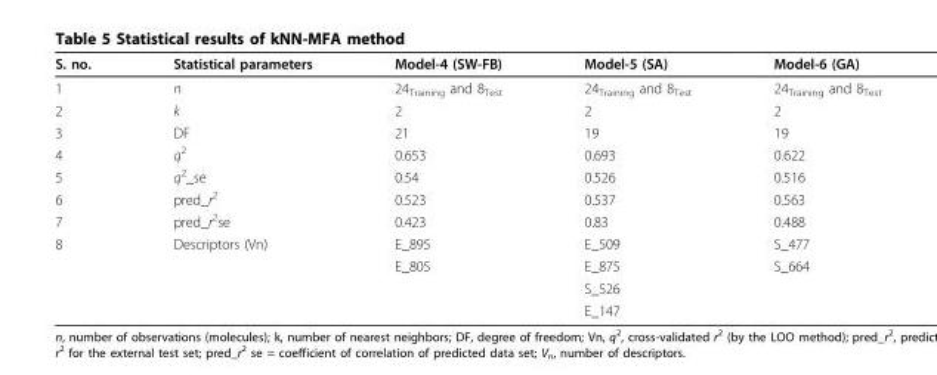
<table><thead><tr><td>S. no.</td><td>Statistical parameters</td><td>Model-4 (SW-FB)</td><td>Model-5 (SA)</td><td>Model-6 (GA)</td></tr></thead><tbody><tr><td>1</td><td>n</td><td>24<sub>Training</sub> and 8<sub>Test</sub></td><td>24<sub>Training</sub> and 8<sub>Test</sub></td><td>24<sub>Training</sub> and 8<sub>Test</sub></td></tr><tr><td>2</td><td>k</td><td>2</td><td>2</td><td>2</td></tr><tr><td>3</td><td>DF</td><td>21</td><td>19</td><td>19</td></tr><tr><td>4</td><td>q<sup>2</sup></td><td>0.653</td><td>0.693</td><td>0.622</td></tr><tr><td>5</td><td>q<sup>2</sup>_se</td><td>0.54</td><td>0.526</td><td>0.516</td></tr><tr><td>6</td><td>pred_r<sup>2</sup></td><td>0.523</td><td>0.537</td><td>0.563</td></tr><tr><td>7</td><td>pred_r<sup>2</sup>se</td><td>0.423</td><td>0.83</td><td>0.488</td></tr><tr><td rowspan="4">8</td><td>Descriptors (Vn)</td><td>E_895</td><td>E_509</td><td>S_477</td></tr><tr><td></td><td>E_805</td><td>E_875</td><td>S_664</td></tr><tr><td></td><td></td><td>S_526</td><td></td></tr><tr><td></td><td></td><td>E_147</td><td></td></tr></tbody></table>